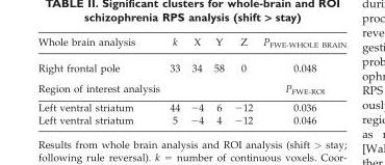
<table><thead><tr><td>Whole brain analysis</td><td>k</td><td>X</td><td>Y</td><td>Z</td><td>P<sub>FWE-WHOLE BRAIN</sub></td></tr></thead><tbody><tr><td>Right frontal pole</td><td>33</td><td>34</td><td>58</td><td>0</td><td>0.048</td></tr><tr><td>Region of interest analysis</td><td></td><td></td><td></td><td></td><td>P<sub>FWE-ROI</sub></td></tr><tr><td>Left ventral striatum</td><td>44</td><td>−4</td><td>6</td><td>−12</td><td>0.036</td></tr><tr><td>Left ventral striatum</td><td>5</td><td>−4</td><td>4</td><td>−12</td><td>0.046</td></tr></tbody></table>